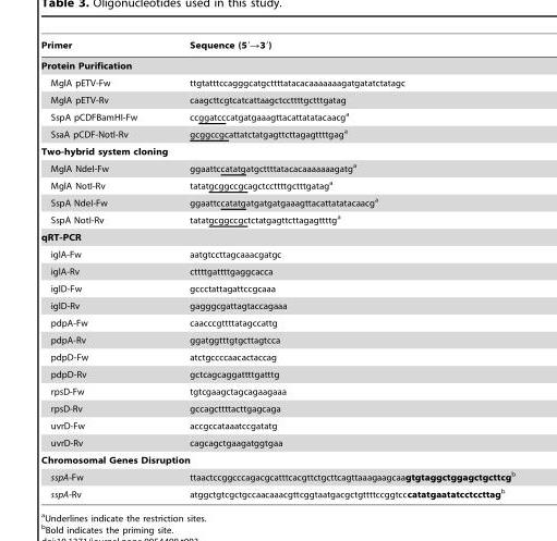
<table><thead><tr><td>Primer</td><td>Sequence (5′→3′)</td></tr></thead><tbody><tr><td colspan="2">Protein Purification</td></tr><tr><td>MglA pETV-Fw</td><td>ttgtatttccagggcatgcttttatacacaaaaaaagatgatatctatagc</td></tr><tr><td>MglA pETV-Rv</td><td>caagcttcgtcatcattaagctccttttgctttgatag</td></tr><tr><td>SspA pCDFBamHI-Fw</td><td>ccggatcccatgatgaaagttacattatatacaacg<sup>a</sup></td></tr><tr><td>SsaA pCDF-NotI-Rv</td><td>gcggccgcattatctatgagttcttagagttttgag<sup>a</sup></td></tr><tr><td colspan="2">Two-hybrid system cloning</td></tr><tr><td>MglA NdeI-Fw</td><td>ggaattccatatgatgcttttatacacaaaaaaagatg<sup>a</sup></td></tr><tr><td>MglA NotI-Rv</td><td>tatatgcggccgcagctccttttgctttgatag<sup>a</sup></td></tr><tr><td>SspA NdeI-Fw</td><td>ggaattccatatgatgatgatgaaagttacattatatacaacg<sup>a</sup></td></tr><tr><td>SspA NotI-Rv</td><td>tatatgcggccgctctatgagttcttagagttttg<sup>a</sup></td></tr><tr><td colspan="2">qRT-PCR</td></tr><tr><td>iglA-Fw</td><td>aatgtccttagcaaacgatgc</td></tr><tr><td>iglA-Rv</td><td>cttttgattttgaggcacca</td></tr><tr><td>iglD-Fw</td><td>gccctattagattccgcaaa</td></tr><tr><td>iglD-Rv</td><td>gagggcgattagtaccagaaa</td></tr><tr><td>pdpA-Fw</td><td>caacccgttttatagccattg</td></tr><tr><td>pdpA-Rv</td><td>ggatggtttgtgcttagtcca</td></tr><tr><td>pdpD-Fw</td><td>atctgccccaacactaccag</td></tr><tr><td>pdpD-Rv</td><td>gctcagcaggattttgatttg</td></tr><tr><td>rpsD-Fw</td><td>tgtcgaagctagcagaagaaa</td></tr><tr><td>rpsD-Rv</td><td>gccagcttttacttgagcaga</td></tr><tr><td>uvrD-Fw</td><td>accgccataaatccgatatg</td></tr><tr><td>uvrD-Rv</td><td>cagcagctgaagatggtgaa</td></tr><tr><td colspan="2">Chromosomal Genes Disruption</td></tr><tr><td>sspA-Fw</td><td>ttaactccggcccagacgcatttcacgttctgcttcagttaaagaagcaagtgtaggctggagctgcttcgb</td></tr><tr><td>sspA-Rv</td><td>atggctgtcgctgccaacaaacgttcggtaatgacgctgttttccggtcccatatgaatatcctccttagb</td></tr></tbody></table>